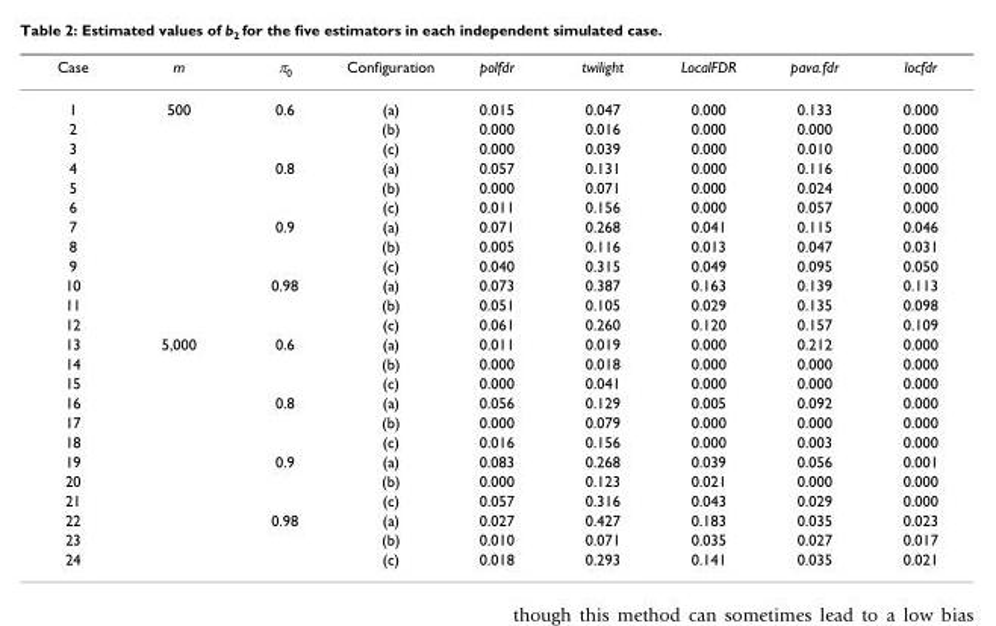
<table><thead><tr><td>Case</td><td>m</td><td>π<sub>0</sub></td><td>Configuration</td><td>polfdr</td><td>twilight</td><td>LocalFDR</td><td>pava.fdr</td><td>locfdr</td></tr></thead><tbody><tr><td>1</td><td>500</td><td>0.6</td><td>(a)</td><td>0.015</td><td>0.047</td><td>0.000</td><td>0.133</td><td>0.000</td></tr><tr><td>2</td><td></td><td></td><td>(b)</td><td>0.000</td><td>0.016</td><td>0.000</td><td>0.000</td><td>0.000</td></tr><tr><td>3</td><td></td><td></td><td>(c)</td><td>0.000</td><td>0.039</td><td>0.000</td><td>0.010</td><td>0.000</td></tr><tr><td>4</td><td></td><td>0.8</td><td>(a)</td><td>0.057</td><td>0.131</td><td>0.000</td><td>0.116</td><td>0.000</td></tr><tr><td>5</td><td></td><td></td><td>(b)</td><td>0.000</td><td>0.071</td><td>0.000</td><td>0.024</td><td>0.000</td></tr><tr><td>6</td><td></td><td></td><td>(c)</td><td>0.011</td><td>0.156</td><td>0.000</td><td>0.057</td><td>0.000</td></tr><tr><td>7</td><td></td><td>0.9</td><td>(a)</td><td>0.071</td><td>0.268</td><td>0.041</td><td>0.115</td><td>0.046</td></tr><tr><td>8</td><td></td><td></td><td>(b)</td><td>0.005</td><td>0.116</td><td>0.013</td><td>0.047</td><td>0.031</td></tr><tr><td>9</td><td></td><td></td><td>(c)</td><td>0.040</td><td>0.315</td><td>0.049</td><td>0.095</td><td>0.050</td></tr><tr><td>10</td><td></td><td>0.98</td><td>(a)</td><td>0.073</td><td>0.387</td><td>0.163</td><td>0.139</td><td>0.113</td></tr><tr><td>11</td><td></td><td></td><td>(b)</td><td>0.051</td><td>0.105</td><td>0.029</td><td>0.135</td><td>0.098</td></tr><tr><td>12</td><td></td><td></td><td>(c)</td><td>0.061</td><td>0.260</td><td>0.120</td><td>0.157</td><td>0.109</td></tr><tr><td>13</td><td>5,000</td><td>0.6</td><td>(a)</td><td>0.011</td><td>0.019</td><td>0.000</td><td>0.212</td><td>0.000</td></tr><tr><td>14</td><td></td><td></td><td>(b)</td><td>0.000</td><td>0.018</td><td>0.000</td><td>0.000</td><td>0.000</td></tr><tr><td>15</td><td></td><td></td><td>(c)</td><td>0.000</td><td>0.041</td><td>0.000</td><td>0.000</td><td>0.000</td></tr><tr><td>16</td><td></td><td>0.8</td><td>(a)</td><td>0.056</td><td>0.129</td><td>0.005</td><td>0.092</td><td>0.000</td></tr><tr><td>17</td><td></td><td></td><td>(b)</td><td>0.000</td><td>0.079</td><td>0.000</td><td>0.000</td><td>0.000</td></tr><tr><td>18</td><td></td><td></td><td>(c)</td><td>0.016</td><td>0.156</td><td>0.000</td><td>0.003</td><td>0.000</td></tr><tr><td>19</td><td></td><td>0.9</td><td>(a)</td><td>0.083</td><td>0.268</td><td>0.039</td><td>0.056</td><td>0.001</td></tr><tr><td>20</td><td></td><td></td><td>(b)</td><td>0.000</td><td>0.123</td><td>0.021</td><td>0.000</td><td>0.000</td></tr><tr><td>21</td><td></td><td></td><td>(c)</td><td>0.057</td><td>0.316</td><td>0.043</td><td>0.029</td><td>0.000</td></tr><tr><td>22</td><td></td><td>0.98</td><td>(a)</td><td>0.027</td><td>0.427</td><td>0.183</td><td>0.035</td><td>0.023</td></tr><tr><td>23</td><td></td><td></td><td>(b)</td><td>0.010</td><td>0.071</td><td>0.035</td><td>0.027</td><td>0.017</td></tr><tr><td>24</td><td></td><td></td><td>(c)</td><td>0.018</td><td>0.293</td><td>0.141</td><td>0.035</td><td>0.021</td></tr></tbody></table>